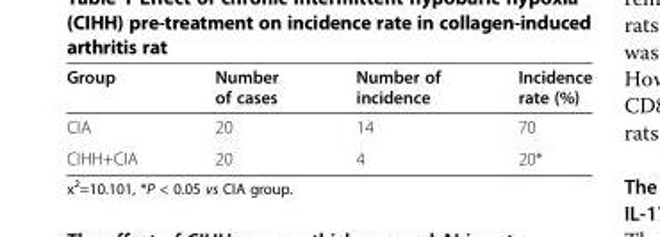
<table><thead><tr><td>Group</td><td>Number of cases</td><td>Number of incidence</td><td>Incidence rate (%)</td></tr></thead><tbody><tr><td>CIA</td><td>20</td><td>14</td><td>70</td></tr><tr><td>CIHH+CIA</td><td>20</td><td>4</td><td>20*</td></tr></tbody></table>